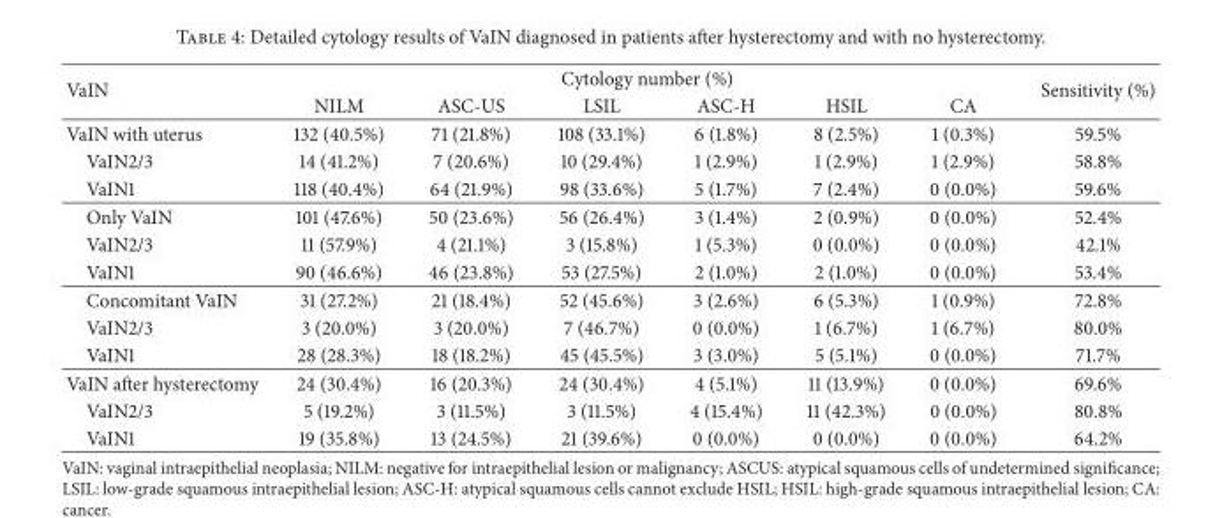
<table><thead><tr><td rowspan="2">VaIN</td><td colspan="6">Cytology number (%)</td><td rowspan="2">Sensitivity (%)</td></tr><tr><td>NILM</td><td>ASC-US</td><td>LSIL</td><td>ASC-H</td><td>HSIL</td><td>CA</td></tr></thead><tbody><tr><td>VaIN with uterus</td><td>132 (40.5%)</td><td>71 (21.8%)</td><td>108 (33.1%)</td><td>6 (1.8%)</td><td>8 (2.5%)</td><td>1 (0.3%)</td><td>59.5%</td></tr><tr><td>VaIN2/3</td><td>14 (41.2%)</td><td>7 (20.6%)</td><td>10 (29.4%)</td><td>1 (2.9%)</td><td>1 (2.9%)</td><td>1 (2.9%)</td><td>58.8%</td></tr><tr><td>VaIN1</td><td>118 (40.4%)</td><td>64 (21.9%)</td><td>98 (33.6%)</td><td>5 (1.7%)</td><td>7 (2.4%)</td><td>0 (0.0%)</td><td>59.6%</td></tr><tr><td>Only VaIN</td><td>101 (47.6%)</td><td>50 (23.6%)</td><td>56 (26.4%)</td><td>3 (1.4%)</td><td>2 (0.9%)</td><td>0 (0.0%)</td><td>52.4%</td></tr><tr><td>VaIN2/3</td><td>11 (57.9%)</td><td>4 (21.1%)</td><td>3 (15.8%)</td><td>1 (5.3%)</td><td>0 (0.0%)</td><td>0 (0.0%)</td><td>42.1%</td></tr><tr><td>VaIN1</td><td>90 (46.6%)</td><td>46 (23.8%)</td><td>53 (27.5%)</td><td>2 (1.0%)</td><td>2 (1.0%)</td><td>0 (0.0%)</td><td>53.4%</td></tr><tr><td>Concomitant VaIN</td><td>31 (27.2%)</td><td>21 (18.4%)</td><td>52 (45.6%)</td><td>3 (2.6%)</td><td>6 (5.3%)</td><td>1 (0.9%)</td><td>72.8%</td></tr><tr><td>VaIN2/3</td><td>3 (20.0%)</td><td>3 (20.0%)</td><td>7 (46.7%)</td><td>0 (0.0%)</td><td>1 (6.7%)</td><td>1 (6.7%)</td><td>80.0%</td></tr><tr><td>VaIN1</td><td>28 (28.3%)</td><td>18 (18.2%)</td><td>45 (45.5%)</td><td>3 (3.0%)</td><td>5 (5.1%)</td><td>0 (0.0%)</td><td>71.7%</td></tr><tr><td>VaIN after hysterectomy</td><td>24 (30.4%)</td><td>16 (20.3%)</td><td>24 (30.4%)</td><td>4 (5.1%)</td><td>11 (13.9%)</td><td>0 (0.0%)</td><td>69.6%</td></tr><tr><td>VaIN2/3</td><td>5 (19.2%)</td><td>3 (11.5%)</td><td>3 (11.5%)</td><td>4 (15.4%)</td><td>11 (42.3%)</td><td>0 (0.0%)</td><td>80.8%</td></tr><tr><td>VaIN1</td><td>19 (35.8%)</td><td>13 (24.5%)</td><td>21 (39.6%)</td><td>0 (0.0%)</td><td>0 (0.0%)</td><td>0 (0.0%)</td><td>64.2%</td></tr></tbody></table>